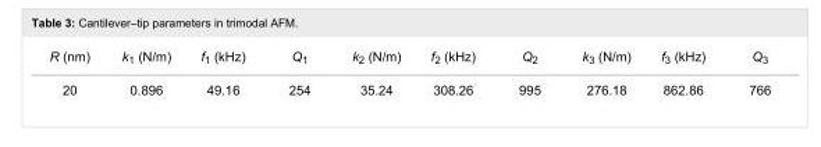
<table><tbody><tr><td>R (nm)</td><td>k<sub>1</sub> (N/m)</td><td>f<sub>1</sub> (kHz)</td><td>Q<sub>1</sub></td><td>k<sub>2</sub> (N/m)</td><td>f<sub>2</sub> (kHz)</td><td>Q<sub>2</sub></td><td>k<sub>3</sub> (N/m)</td><td>f<sub>3</sub> (kHz)</td><td>Q<sub>3</sub></td></tr><tr><td>20</td><td>0.896</td><td>49.16</td><td>254</td><td>35.24</td><td>308.26</td><td>995</td><td>276.18</td><td>862.86</td><td>766</td></tr></tbody></table>